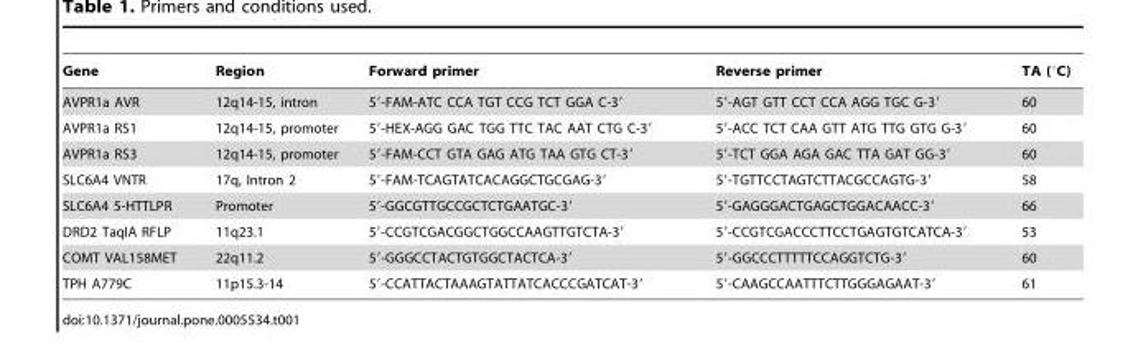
<table><thead><tr><td>Gene</td><td>Region</td><td>Forward primer</td><td>Reverse primer</td><td>TA (°C)</td></tr></thead><tbody><tr><td>AVPR1a AVR</td><td>12q14-15, intron</td><td>5′-FAM-ATC CCA TGT CCG TCT GGA C-3′</td><td>5′-AGT GTT CCT CCA AGG TGC G-3′</td><td>60</td></tr><tr><td>AVPR1a RS1</td><td>12q14-15, promoter</td><td>5′-HEX-AGG GAC TGG TTC TAC AAT CTG C-3′</td><td>5′-ACC TCT CAA GTT ATG TTG GTG G-3′</td><td>60</td></tr><tr><td>AVPR1a RS3</td><td>12q14-15, promoter</td><td>5′-FAM-CCT GTA GAG ATG TAA GTG CT-3′</td><td>5′-TCT GGA AGA GAC TTA GAT GG-3′</td><td>60</td></tr><tr><td>SLC6A4 VNTR</td><td>17q, Intron 2</td><td>5′-FAM-TCAGTATCACAGGCTGCGAG-3′</td><td>5′-TGTTCCTAGTCTTACGCCAGTG-3′</td><td>58</td></tr><tr><td>SLC6A4 5-HTTLPR</td><td>Promoter</td><td>5′-GGCGTTGCCGCTCTGAATGC-3′</td><td>5′-GAGGGACTGAGCTGGACAACC-3′</td><td>66</td></tr><tr><td>DRD2 TaqIA RFLP</td><td>11q23.1</td><td>5′-CCGTCGACGGCTGGCCAAGTTGTCTA-3′</td><td>5′-CCGTCGACCCTTCCTGAGTGTCATCA-3′</td><td>53</td></tr><tr><td>COMT VAL158MET</td><td>22q11.2</td><td>5′-GGGCCTACTGTGGCTACTCA-3′</td><td>5′-GGCCCTTTTTCCAGGTCTG-3′</td><td>60</td></tr><tr><td>TPH A779C</td><td>11p15.3-14</td><td>5′-CCATTACTAAAGTATTATCACCCGATCAT-3′</td><td>5′-CAAGCCAATTTCTTGGGAGAAT-3′</td><td>61</td></tr></tbody></table>